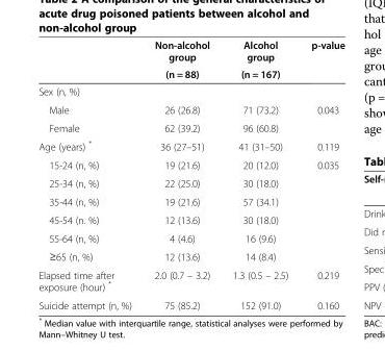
<table><thead><tr><td rowspan="2"></td><td rowspan="2">Non-alcohol group (n = 88)</td><td rowspan="2">Alcohol group (n = 167)</td><td rowspan="2">p-value</td></tr><tr></tr></thead><tbody><tr><td colspan="4">Sex (n, %)</td></tr><tr><td>Male</td><td>26 (26.8)</td><td>71 (73.2)</td><td>0.043</td></tr><tr><td>Female</td><td>62 (39.2)</td><td>96 (60.8)</td><td></td></tr><tr><td>Age (years) *</td><td>36 (27–51)</td><td>41 (31–50)</td><td>0.119</td></tr><tr><td>15-24 (n, %)</td><td>19 (21.6)</td><td>20 (12.0)</td><td>0.035</td></tr><tr><td>25-34 (n, %)</td><td>22 (25.0)</td><td>30 (18.0)</td><td></td></tr><tr><td>35-44 (n, %)</td><td>19 (21.6)</td><td>57 (34.1)</td><td></td></tr><tr><td>45-54 (n. %)</td><td>12 (13.6)</td><td>30 (18.0)</td><td></td></tr><tr><td>55-64 (n, %)</td><td>4 (4.6)</td><td>16 (9.6)</td><td></td></tr><tr><td>≥65 (n, %)</td><td>12 (13.6)</td><td>14 (8.4)</td><td></td></tr><tr><td>Elapsed time after exposure (hour) *</td><td>2.0 (0.7 – 3.2)</td><td>1.3 (0.5 – 2.5)</td><td>0.219</td></tr><tr><td>Suicide attempt (n, %)</td><td>75 (85.2)</td><td>152 (91.0)</td><td>0.160</td></tr></tbody></table>